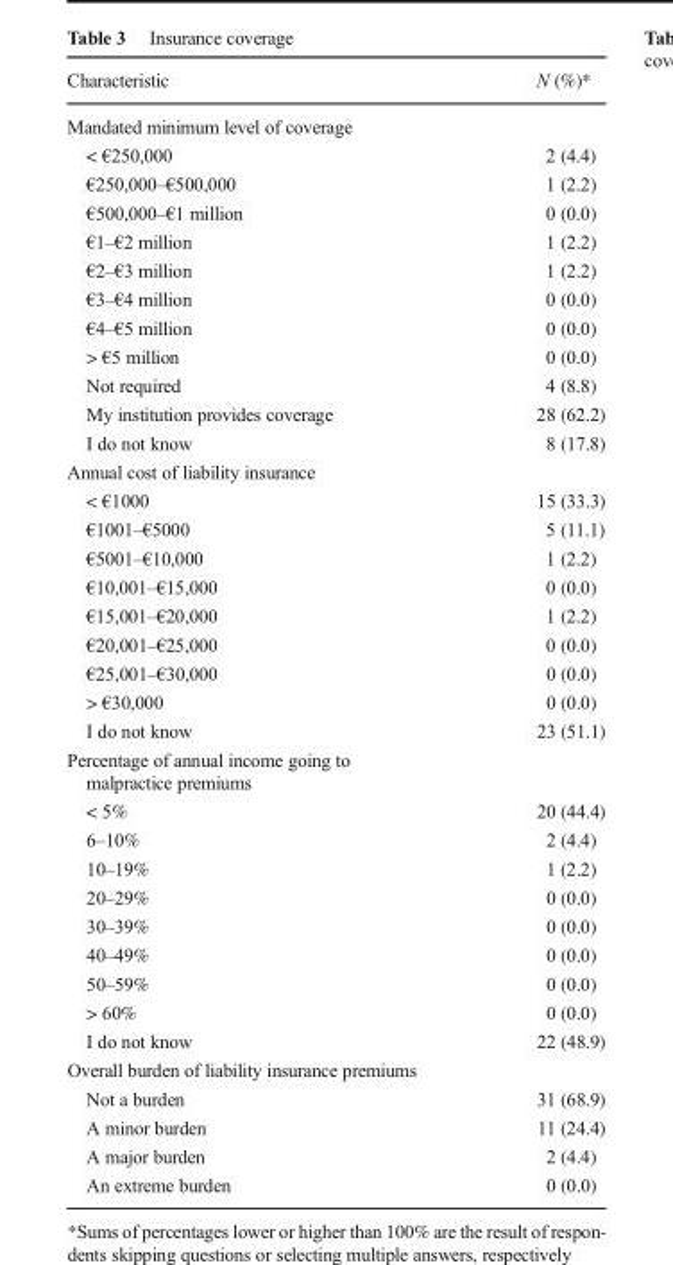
<table><thead><tr><td>Characteristic</td><td>N (%)*</td></tr></thead><tbody><tr><td colspan="2">Mandated minimum level of coverage</td></tr><tr><td>&lt; €250,000</td><td>2 (4.4)</td></tr><tr><td>€250,000–€500,000</td><td>1 (2.2)</td></tr><tr><td>€500,000–€1 million</td><td>0 (0.0)</td></tr><tr><td>€1–€2 million</td><td>1 (2.2)</td></tr><tr><td>€2–€3 million</td><td>1 (2.2)</td></tr><tr><td>€3–€4 million</td><td>0 (0.0)</td></tr><tr><td>€4–€5 million</td><td>0 (0.0)</td></tr><tr><td>&gt; €5 million</td><td>0 (0.0)</td></tr><tr><td>Not required</td><td>4 (8.8)</td></tr><tr><td>My institution provides coverage</td><td>28 (62.2)</td></tr><tr><td>I do not know</td><td>8 (17.8)</td></tr><tr><td colspan="2">Annual cost of liability insurance</td></tr><tr><td>&lt; €1000</td><td>15 (33.3)</td></tr><tr><td>€1001–€5000</td><td>5 (11.1)</td></tr><tr><td>€5001–€10,000</td><td>1 (2.2)</td></tr><tr><td>€10,001–€15,000</td><td>0 (0.0)</td></tr><tr><td>€15,001–€20,000</td><td>1 (2.2)</td></tr><tr><td>€20,001–€25,000</td><td>0 (0.0)</td></tr><tr><td>€25,001–€30,000</td><td>0 (0.0)</td></tr><tr><td>&gt; €30,000</td><td>0 (0.0)</td></tr><tr><td>I do not know</td><td>23 (51.1)</td></tr><tr><td colspan="2">Percentage of annual income going to malpractice premiums</td></tr><tr><td>&lt; 5%</td><td>20 (44.4)</td></tr><tr><td>6–10%</td><td>2 (4.4)</td></tr><tr><td>10–19%</td><td>1 (2.2)</td></tr><tr><td>20–29%</td><td>0 (0.0)</td></tr><tr><td>30–39%</td><td>0 (0.0)</td></tr><tr><td>40–49%</td><td>0 (0.0)</td></tr><tr><td>50–59%</td><td>0 (0.0)</td></tr><tr><td>&gt; 60%</td><td>0 (0.0)</td></tr><tr><td>I do not know</td><td>22 (48.9)</td></tr><tr><td colspan="2">Overall burden of liability insurance premiums</td></tr><tr><td>Not a burden</td><td>31 (68.9)</td></tr><tr><td>A minor burden</td><td>11 (24.4)</td></tr><tr><td>A major burden</td><td>2 (4.4)</td></tr><tr><td>An extreme burden</td><td>0 (0.0)</td></tr></tbody></table>